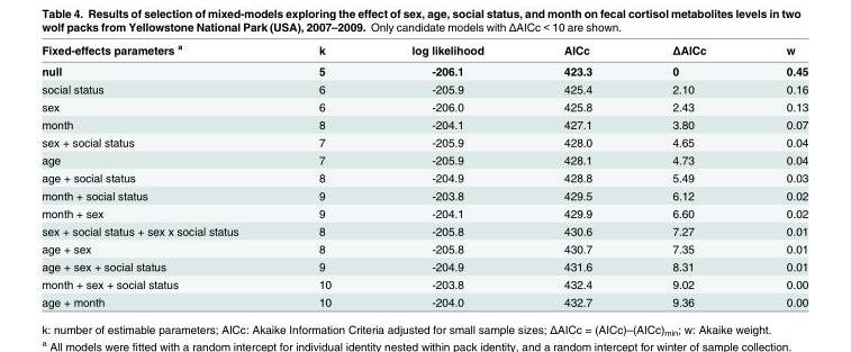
<table><thead><tr><td>Fixed-effects parameters <sup>a</sup></td><td>k</td><td>log likelihood</td><td>AICc</td><td>ΔAICc</td><td>w</td></tr></thead><tbody><tr><td>null</td><td>5</td><td>-206.1</td><td>423.3</td><td>0</td><td>0.45</td></tr><tr><td>social status</td><td>6</td><td>-205.9</td><td>425.4</td><td>2.10</td><td>0.16</td></tr><tr><td>sex</td><td>6</td><td>-206.0</td><td>425.8</td><td>2.43</td><td>0.13</td></tr><tr><td>month</td><td>8</td><td>-204.1</td><td>427.1</td><td>3.80</td><td>0.07</td></tr><tr><td>sex + social status</td><td>7</td><td>-205.9</td><td>428.0</td><td>4.65</td><td>0.04</td></tr><tr><td>age</td><td>7</td><td>-205.9</td><td>428.1</td><td>4.73</td><td>0.04</td></tr><tr><td>age + social status</td><td>8</td><td>-204.9</td><td>428.8</td><td>5.49</td><td>0.03</td></tr><tr><td>month + social status</td><td>9</td><td>-203.8</td><td>429.5</td><td>6.12</td><td>0.02</td></tr><tr><td>month + sex</td><td>9</td><td>-204.1</td><td>429.9</td><td>6.60</td><td>0.02</td></tr><tr><td>sex + social status + sex x social status</td><td>8</td><td>-205.8</td><td>430.6</td><td>7.27</td><td>0.01</td></tr><tr><td>age + sex</td><td>8</td><td>-205.8</td><td>430.7</td><td>7.35</td><td>0.01</td></tr><tr><td>age + sex + social status</td><td>9</td><td>-204.9</td><td>431.6</td><td>8.31</td><td>0.01</td></tr><tr><td>month + sex + social status</td><td>10</td><td>-203.8</td><td>432.4</td><td>9.02</td><td>0.00</td></tr><tr><td>age + month</td><td>10</td><td>-204.0</td><td>432.7</td><td>9.36</td><td>0.00</td></tr></tbody></table>